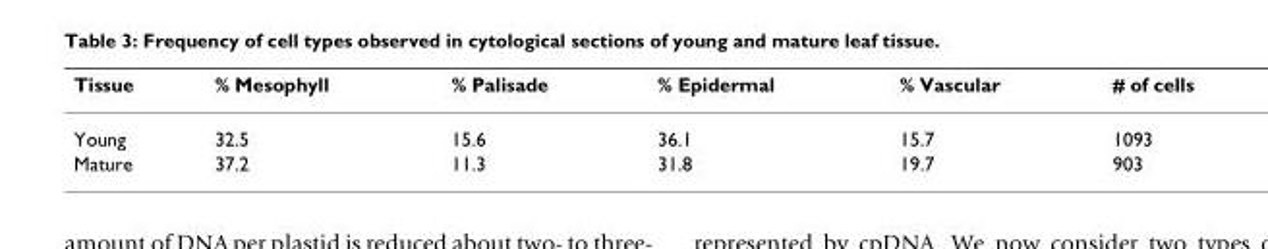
<table><thead><tr><td>Tissue</td><td>% Mesophyll</td><td>% Palisade</td><td>% Epidermal</td><td>% Vascular</td><td># of cells</td></tr></thead><tbody><tr><td>Young</td><td>32.5</td><td>15.6</td><td>36.1</td><td>15.7</td><td>1093</td></tr><tr><td>Mature</td><td>37.2</td><td>11.3</td><td>31.8</td><td>19.7</td><td>903</td></tr></tbody></table>